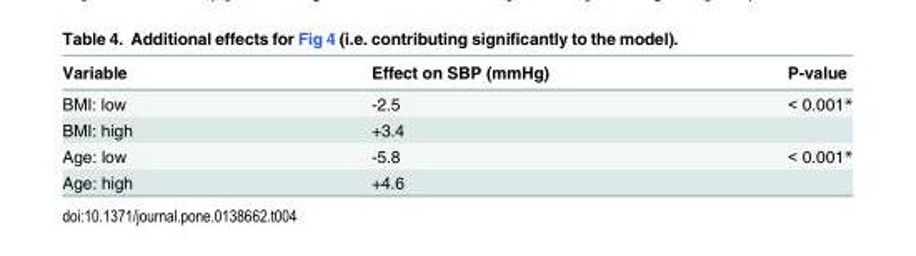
<table><thead><tr><td>Variable</td><td>Effect on SBP (mmHg)</td><td>P-value</td></tr></thead><tbody><tr><td>BMI: low</td><td>-2.5</td><td>&lt; 0.001*</td></tr><tr><td>BMI: high</td><td>+3.4</td><td></td></tr><tr><td>Age: low</td><td>-5.8</td><td>&lt; 0.001*</td></tr><tr><td>Age: high</td><td>+4.6</td><td></td></tr></tbody></table>